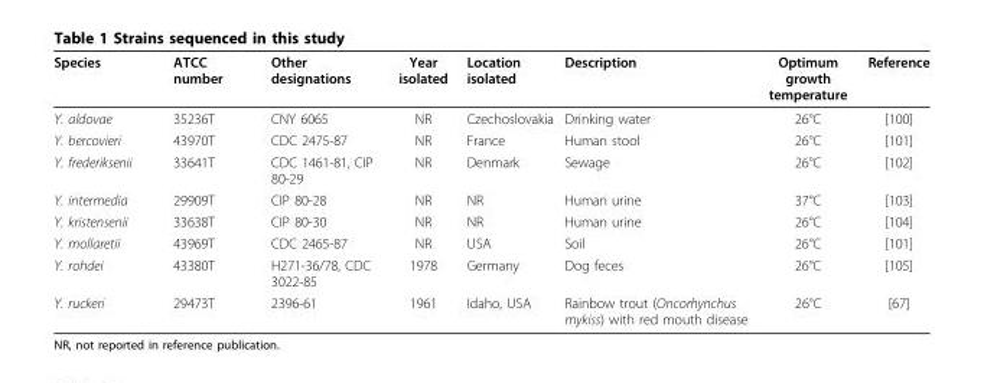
<table><thead><tr><td>Species</td><td>ATCC number</td><td>Other designations</td><td>Year isolated</td><td>Location isolated</td><td>Description</td><td>Optimum growth temperature</td><td>Reference</td></tr></thead><tbody><tr><td>Y. aldovae</td><td>35236T</td><td>CNY 6065</td><td>NR</td><td>Czechoslovakia</td><td>Drinking water</td><td>26°C</td><td>[100]</td></tr><tr><td>Y. bercovieri</td><td>43970T</td><td>CDC 2475-87</td><td>NR</td><td>France</td><td>Human stool</td><td>26°C</td><td>[101]</td></tr><tr><td>Y. frederiksenii</td><td>33641T</td><td>CDC 1461-81, CIP 80-29</td><td>NR</td><td>Denmark</td><td>Sewage</td><td>26°C</td><td>[102]</td></tr><tr><td>Y. intermedia</td><td>29909T</td><td>CIP 80-28</td><td>NR</td><td>NR</td><td>Human urine</td><td>37°C</td><td>[103]</td></tr><tr><td>Y. kristensenii</td><td>33638T</td><td>CIP 80-30</td><td>NR</td><td>NR</td><td>Human urine</td><td>26°C</td><td>[104]</td></tr><tr><td>Y. mollaretii</td><td>43969T</td><td>CDC 2465-87</td><td>NR</td><td>USA</td><td>Soil</td><td>26°C</td><td>[101]</td></tr><tr><td>Y. rohdei</td><td>43380T</td><td>H271-36/78, CDC 3022-85</td><td>1978</td><td>Germany</td><td>Dog feces</td><td>26°C</td><td>[105]</td></tr><tr><td>Y. ruckeri</td><td>29473T</td><td>2396-61</td><td>1961</td><td>Idaho, USA</td><td>Rainbow trout (Oncorhynchus mykiss) with red mouth disease</td><td>26°C</td><td>[67]</td></tr></tbody></table>